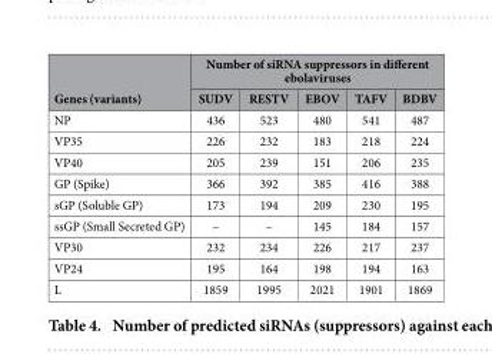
<table><thead><tr><td rowspan="2">Genes (variants)</td><td colspan="5">Number of siRNA suppressors in different ebolaviruses</td></tr><tr><td>SUDV</td><td>RESTV</td><td>EBOV</td><td>TAFV</td><td>BDBV</td></tr></thead><tbody><tr><td>NP</td><td>436</td><td>523</td><td>480</td><td>541</td><td>487</td></tr><tr><td>VP35</td><td>226</td><td>232</td><td>183</td><td>218</td><td>224</td></tr><tr><td>VP40</td><td>205</td><td>239</td><td>151</td><td>206</td><td>235</td></tr><tr><td>GP (Spike)</td><td>366</td><td>392</td><td>385</td><td>416</td><td>388</td></tr><tr><td>sGP (Soluble GP)</td><td>173</td><td>194</td><td>209</td><td>230</td><td>195</td></tr><tr><td>ssGP (Small Secreted GP)</td><td>–</td><td>–</td><td>145</td><td>184</td><td>157</td></tr><tr><td>VP30</td><td>232</td><td>234</td><td>226</td><td>217</td><td>237</td></tr><tr><td>VP24</td><td>195</td><td>164</td><td>198</td><td>194</td><td>163</td></tr><tr><td>L</td><td>1859</td><td>1995</td><td>2021</td><td>1901</td><td>1869</td></tr></tbody></table>